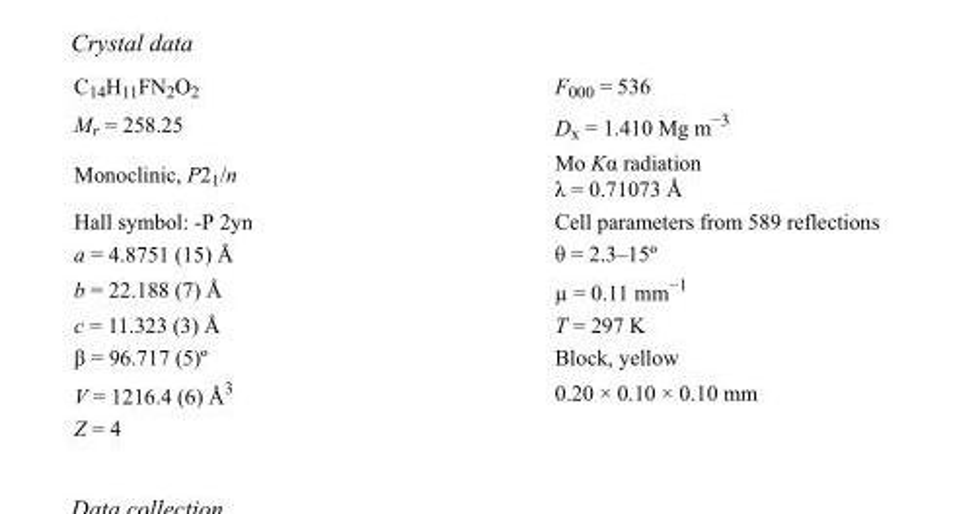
<table><tbody><tr><td>C<sub>14</sub>H<sub>11</sub>FN<sub>2</sub>O<sub>2</sub></td><td>F000 = 536</td></tr><tr><td>M<sub>r</sub> = 258.25</td><td>D<sub>x</sub> = 1.410 Mg m<sup>−3</sup></td></tr><tr><td>Monoclinic, P2<sub>1</sub>/n</td><td>Mo Kα radiation λ = 0.71073 Å</td></tr><tr><td>Hall symbol: -P 2yn</td><td>Cell parameters from 589 reflections</td></tr><tr><td>a = 4.8751 (15) Å</td><td>θ = 2.3–15º</td></tr><tr><td>b = 22.188 (7) Å</td><td>µ = 0.11 mm<sup>−1</sup></td></tr><tr><td>c = 11.323 (3) Å</td><td>T = 297 K</td></tr><tr><td>β = 96.717 (5)º</td><td>Block, yellow</td></tr><tr><td>V = 1216.4 (6) Å<sup>3</sup></td><td>0.20 × 0.10 × 0.10 mm</td></tr><tr><td>Z = 4</td><td></td></tr></tbody></table>